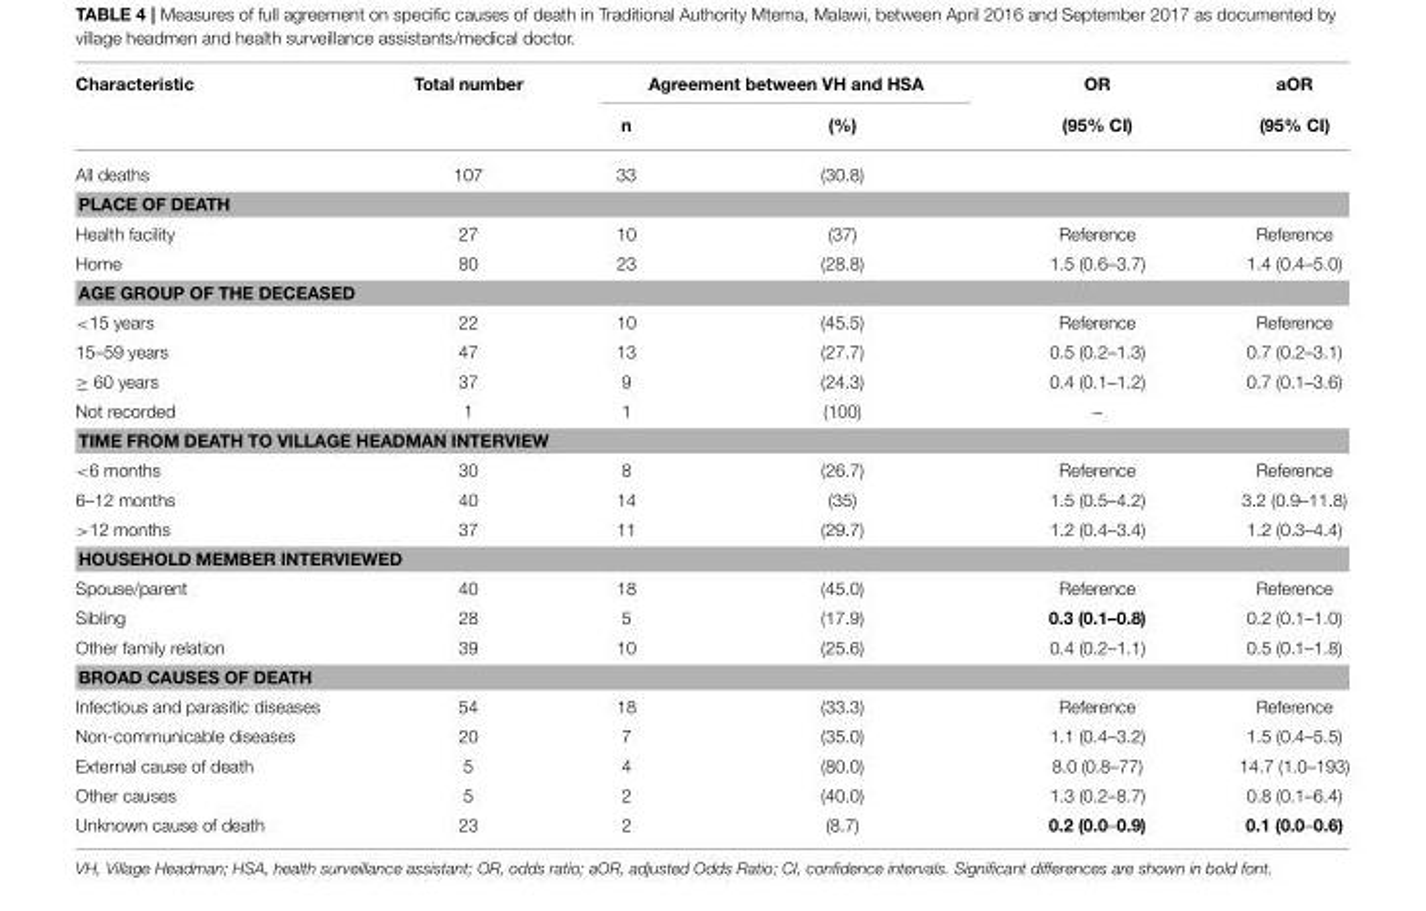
<table><thead><tr><td rowspan="2">Characteristic</td><td rowspan="2">Total number</td><td colspan="2">Agreement between VH and HSA</td><td rowspan="2">OR (95% CI)</td><td rowspan="2">aOR (95% CI)</td></tr><tr><td>n</td><td>(%)</td></tr></thead><tbody><tr><td>All deaths</td><td>107</td><td>33</td><td>(30.8)</td><td></td><td></td></tr><tr><td colspan="6">PLACE OF DEATH</td></tr><tr><td>Health facility</td><td>27</td><td>10</td><td>(37)</td><td>Reference</td><td>Reference</td></tr><tr><td>Home</td><td>80</td><td>23</td><td>(28.8)</td><td>1.5 (0.6–3.7)</td><td>1.4 (0.4–5.0)</td></tr><tr><td colspan="6">AGE GROUP OF THE DECEASED</td></tr><tr><td>&lt;15 years</td><td>22</td><td>10</td><td>(45.5)</td><td>Reference</td><td>Reference</td></tr><tr><td>15–59 years</td><td>47</td><td>13</td><td>(27.7)</td><td>0.5 (0.2–1.3)</td><td>0.7 (0.2–3.1)</td></tr><tr><td>≥ 60 years</td><td>37</td><td>9</td><td>(24.3)</td><td>0.4 (0.1–1.2)</td><td>0.7 (0.1–3.6)</td></tr><tr><td>Not recorded</td><td>1</td><td>1</td><td>(100)</td><td>–</td><td></td></tr><tr><td colspan="6">TIME FROM DEATH TO VILLAGE HEADMAN INTERVIEW</td></tr><tr><td>&lt;6 months</td><td>30</td><td>8</td><td>(26.7)</td><td>Reference</td><td>Reference</td></tr><tr><td>6–12 months</td><td>40</td><td>14</td><td>(35)</td><td>1.5 (0.5–4.2)</td><td>3.2 (0.9–11.8)</td></tr><tr><td>&gt;12 months</td><td>37</td><td>11</td><td>(29.7)</td><td>1.2 (0.4–3.4)</td><td>1.2 (0.3–4.4)</td></tr><tr><td colspan="6">HOUSEHOLD MEMBER INTERVIEWED</td></tr><tr><td>Spouse/parent</td><td>40</td><td>18</td><td>(45.0)</td><td>Reference</td><td>Reference</td></tr><tr><td>Sibling</td><td>28</td><td>5</td><td>(17.9)</td><td>0.3 (0.1–0.8)</td><td>0.2 (0.1–1.0)</td></tr><tr><td>Other family relation</td><td>39</td><td>10</td><td>(25.6)</td><td>0.4 (0.2–1.1)</td><td>0.5 (0.1–1.8)</td></tr><tr><td colspan="6">BROAD CAUSES OF DEATH</td></tr><tr><td>Infectious and parasitic diseases</td><td>54</td><td>18</td><td>(33.3)</td><td>Reference</td><td>Reference</td></tr><tr><td>Non-communicable diseases</td><td>20</td><td>7</td><td>(35.0)</td><td>1.1 (0.4–3.2)</td><td>1.5 (0.4–5.5)</td></tr><tr><td>External cause of death</td><td>5</td><td>4</td><td>(80.0)</td><td>8.0 (0.8–77)</td><td>14.7 (1.0–193)</td></tr><tr><td>Other causes</td><td>5</td><td>2</td><td>(40.0)</td><td>1.3 (0.2–8.7)</td><td>0.8 (0.1–6.4)</td></tr><tr><td>Unknown cause of death</td><td>23</td><td>2</td><td>(8.7)</td><td>0.2 (0.0–0.9)</td><td>0.1 (0.0–0.6)</td></tr></tbody></table>